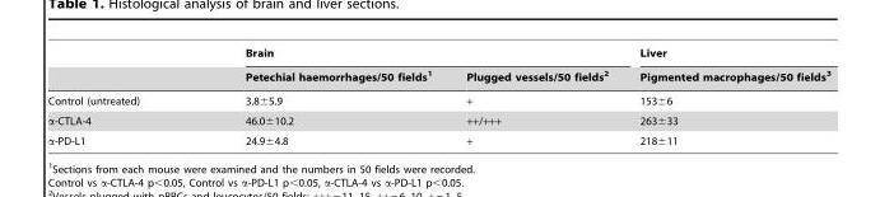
<table><thead><tr><td rowspan="2"></td><td colspan="2">Brain</td><td rowspan="2">Liver Pigmented macrophages/50 fields<sup>3</sup></td></tr><tr><td>Petechial haemorrhages/50 fields<sup>1</sup></td><td>Plugged vessels/50 fields<sup>2</sup></td></tr></thead><tbody><tr><td>Control (untreated)</td><td>3.8±5.9</td><td>+</td><td>153±6</td></tr><tr><td>α-CTLA-4</td><td>46.0±10.2</td><td>++/+++</td><td>263±33</td></tr><tr><td>α-PD-L1</td><td>24.9±4.8</td><td>+</td><td>218±11</td></tr></tbody></table>